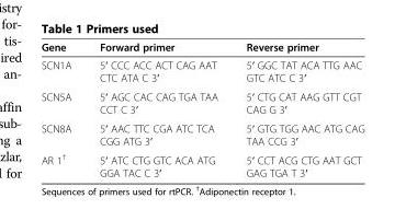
<table><thead><tr><td>Gene</td><td>Forward primer</td><td>Reverse primer</td></tr></thead><tbody><tr><td>SCN1A</td><td>5′ CCC ACC ACT CAG AAT CTC ATA C 3′</td><td>5′ GGC TAT ACA TTG AAC GTC ATC C 3′</td></tr><tr><td>SCN5A</td><td>5′ AGC CAC CAG TGA TAA CCT C 3′</td><td>5′ CTG CAT AAG GTT CGT CAG G 3′</td></tr><tr><td>SCN8A</td><td>5′ AAC TTC CGA ATC TCA CGG ATG 3′</td><td>5′ GTG TGG AAC ATG CAG TAA CCG 3′</td></tr><tr><td>AR 1<sup>†</sup></td><td>5′ ATC CTG GTC ACA ATG GGA TAC C 3′</td><td>5′ CCT ACG CTG AAT GCT GAG TGA T 3′</td></tr></tbody></table>